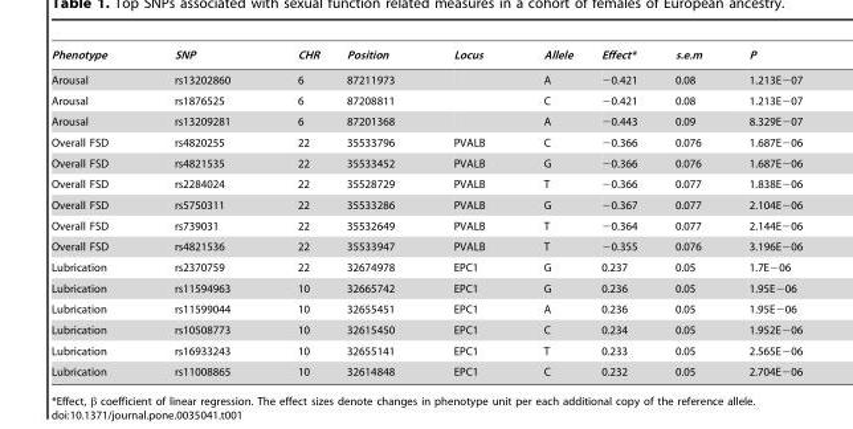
<table><thead><tr><td>Phenotype</td><td>SNP</td><td>CHR</td><td>Position</td><td>Locus</td><td>Allele</td><td>Effect*</td><td>s.e.m</td><td>P</td></tr></thead><tbody><tr><td>Arousal</td><td>rs13202860</td><td>6</td><td>87211973</td><td></td><td>A</td><td>−0.421</td><td>0.08</td><td>1.213E−07</td></tr><tr><td>Arousal</td><td>rs1876525</td><td>6</td><td>87208811</td><td></td><td>C</td><td>−0.421</td><td>0.08</td><td>1.213E−07</td></tr><tr><td>Arousal</td><td>rs13209281</td><td>6</td><td>87201368</td><td></td><td>A</td><td>−0.443</td><td>0.09</td><td>8.329E−07</td></tr><tr><td>Overall FSD</td><td>rs4820255</td><td>22</td><td>35533796</td><td>PVALB</td><td>C</td><td>−0.366</td><td>0.076</td><td>1.687E−06</td></tr><tr><td>Overall FSD</td><td>rs4821535</td><td>22</td><td>35533452</td><td>PVALB</td><td>G</td><td>−0.366</td><td>0.076</td><td>1.687E−06</td></tr><tr><td>Overall FSD</td><td>rs2284024</td><td>22</td><td>35528729</td><td>PVALB</td><td>T</td><td>−0.366</td><td>0.077</td><td>1.838E−06</td></tr><tr><td>Overall FSD</td><td>rs5750311</td><td>22</td><td>35533286</td><td>PVALB</td><td>G</td><td>−0.367</td><td>0.077</td><td>2.104E−06</td></tr><tr><td>Overall FSD</td><td>rs739031</td><td>22</td><td>35532649</td><td>PVALB</td><td>T</td><td>−0.364</td><td>0.077</td><td>2.144E−06</td></tr><tr><td>Overall FSD</td><td>rs4821536</td><td>22</td><td>35533947</td><td>PVALB</td><td>T</td><td>−0.355</td><td>0.076</td><td>3.196E−06</td></tr><tr><td>Lubrication</td><td>rs2370759</td><td>22</td><td>32674978</td><td>EPC1</td><td>G</td><td>0.237</td><td>0.05</td><td>1.7E−06</td></tr><tr><td>Lubrication</td><td>rs11594963</td><td>10</td><td>32665742</td><td>EPC1</td><td>G</td><td>0.236</td><td>0.05</td><td>1.95E−06</td></tr><tr><td>Lubrication</td><td>rs11599044</td><td>10</td><td>32655451</td><td>EPC1</td><td>A</td><td>0.236</td><td>0.05</td><td>1.95E−06</td></tr><tr><td>Lubrication</td><td>rs10508773</td><td>10</td><td>32615450</td><td>EPC1</td><td>C</td><td>0.234</td><td>0.05</td><td>1.952E−06</td></tr><tr><td>Lubrication</td><td>rs16933243</td><td>10</td><td>32655141</td><td>EPC1</td><td>T</td><td>0.233</td><td>0.05</td><td>2.565E−06</td></tr><tr><td>Lubrication</td><td>rs11008865</td><td>10</td><td>32614848</td><td>EPC1</td><td>C</td><td>0.232</td><td>0.05</td><td>2.704E−06</td></tr></tbody></table>